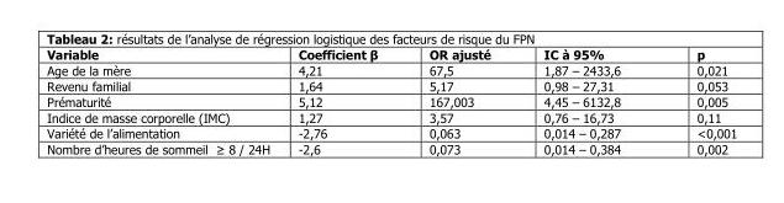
<table><thead><tr><td>Variable</td><td>Coefficient β</td><td>OR ajusté</td><td>IC à 95%</td><td>p</td></tr></thead><tbody><tr><td>Age de la mère</td><td>4,21</td><td>67,5</td><td>1,87 – 2433,6</td><td>0,021</td></tr><tr><td>Revenu familial</td><td>1,64</td><td>5,17</td><td>0,98 – 27,31</td><td>0,053</td></tr><tr><td>Prématurité</td><td>5,12</td><td>167,003</td><td>4,45 – 6132,8</td><td>0,005</td></tr><tr><td>Indice de masse corporelle (IMC)</td><td>1,27</td><td>3,57</td><td>0,76 – 16,73</td><td>0,11</td></tr><tr><td>Variété de l’alimentation</td><td>-2,76</td><td>0,063</td><td>0,014 – 0,287</td><td>&lt;0,001</td></tr><tr><td>Nombre d’heures de sommeil ≥ 8 / 24H</td><td>-2,6</td><td>0,073</td><td>0,014 – 0,384</td><td>0,002</td></tr></tbody></table>